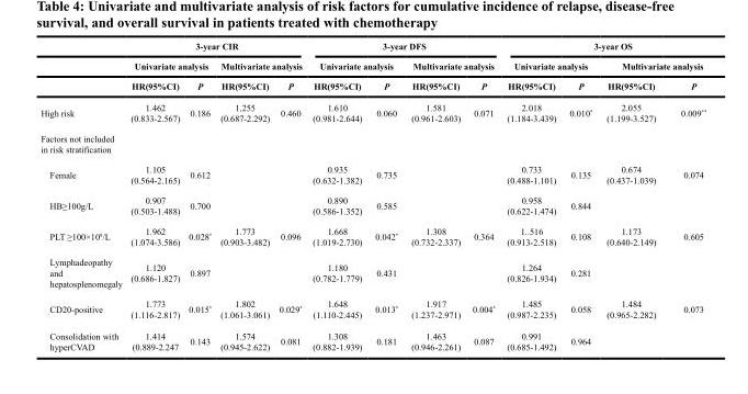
<table><thead><tr><td rowspan="3"></td><td colspan="4">3-year CIR</td><td colspan="4">3-year DFS</td><td colspan="4">3-year OS</td></tr><tr><td colspan="2">Univariate analysis</td><td colspan="2">Multivariate analysis</td><td colspan="2">Univariate analysis</td><td colspan="2">Multivariate analysis</td><td colspan="2">Univariate analysis</td><td colspan="2">Multivariate analysis</td></tr><tr><td>HR(95%CI)</td><td>P</td><td>HR(95%CI)</td><td>P</td><td>HR(95%CI)</td><td>P</td><td>HR(95%CI)</td><td>P</td><td>HR(95%CI)</td><td>P</td><td>HR(95%CI)</td><td>P</td></tr></thead><tbody><tr><td>High risk</td><td>1.462 (0.833-2.567)</td><td>0.186</td><td>1.255 (0.687-2.292)</td><td>0.460</td><td>1.610 (0.981-2.644)</td><td>0.060</td><td>1.581 (0.961-2.603)</td><td>0.071</td><td>2.018 (1.184-3.439)</td><td>0.010*</td><td>2.055 (1.199-3.527)</td><td>0.009**</td></tr><tr><td colspan="13">Factors not included in risk stratification</td></tr><tr><td>Female</td><td>1.105 (0.564-2.165)</td><td>0.612</td><td></td><td></td><td>0.935 (0.632-1.382)</td><td>0.735</td><td></td><td></td><td>0.733 (0.488-1.101)</td><td>0.135</td><td>0.674 (0.437-1.039)</td><td>0.074</td></tr><tr><td>HB≥100g/L</td><td>0.907 (0.503-1.488)</td><td>0.700</td><td></td><td></td><td>0.890 (0.586-1.352)</td><td>0.585</td><td></td><td></td><td>0.958 (0.622-1.474)</td><td>0.844</td><td></td><td></td></tr><tr><td>PLT ≥100×10<sup>9</sup>/L</td><td>1.962 (1.074-3.586)</td><td>0.028*</td><td>1.773 (0.903-3.482)</td><td>0.096</td><td>1.668 (1.019-2.730)</td><td>0.042*</td><td>1.308 (0.732-2.337)</td><td>0.364</td><td>1..516 (0.913-2.518)</td><td>0.108</td><td>1.173 (0.640-2.149)</td><td>0.605</td></tr><tr><td>Lymphadeopathy and hepatosplenomegaly</td><td>1.120 (0.686-1.827)</td><td>0.897</td><td></td><td></td><td>1.180 (0.782-1.779)</td><td>0.431</td><td></td><td></td><td>1.264 (0.826-1.934)</td><td>0.281</td><td></td><td></td></tr><tr><td>CD20-positive</td><td>1.773 (1.116-2.817)</td><td>0.015*</td><td>1.802 (1.061-3.061)</td><td>0.029*</td><td>1.648 (1.110-2.445)</td><td>0.013*</td><td>1.917 (1.237-2.971)</td><td>0.004*</td><td>1.485 (0.987-2.235)</td><td>0.058</td><td>1.484 (0.965-2.282)</td><td>0.073</td></tr><tr><td>Consolidation with hyperCVAD</td><td>1.414 (0.889-2.247</td><td>0.143</td><td>1.574 (0.945-2.622)</td><td>0.081</td><td>1.308 (0.882-1.939)</td><td>0.181</td><td>1.463 (0.946-2.261)</td><td>0.087</td><td>0.991 (0.685-1.492)</td><td>0.964</td><td></td><td></td></tr></tbody></table>